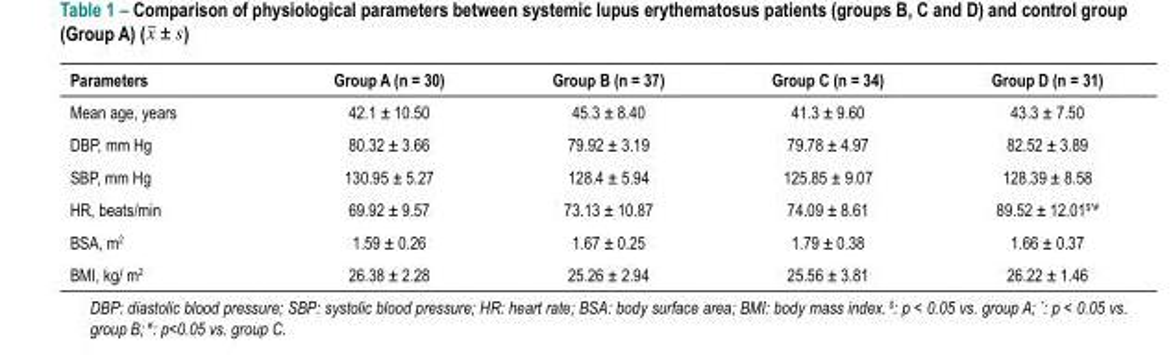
<table><thead><tr><td>Parameters</td><td>Group A (n = 30)</td><td>Group B (n = 37)</td><td>Group C (n = 34)</td><td>Group D (n = 31)</td></tr></thead><tbody><tr><td>Mean age, years</td><td>42.1 ± 10.50</td><td>45.3 ± 8.40</td><td>41.3 ± 9.60</td><td>43.3 ± 7.50</td></tr><tr><td>DBP, mm Hg</td><td>80.32 ± 3.66</td><td>79.92 ± 3.19</td><td>79.78 ± 4.97</td><td>82.52 ± 3.89</td></tr><tr><td>SBP, mm Hg</td><td>130.95 ± 5.27</td><td>128.4 ± 5.94</td><td>125.85 ± 9.07</td><td>128.39 ± 8.58</td></tr><tr><td>HR, beats/min</td><td>69.92 ± 9.57</td><td>73.13 ± 10.87</td><td>74.09 ± 8.61</td><td>89.52 ± 12.01<sup>$*#</sup></td></tr><tr><td>BSA, m<sup>2</sup></td><td>1.59 ± 0.26</td><td>1.67 ± 0.25</td><td>1.79 ± 0.38</td><td>1.66 ± 0.37</td></tr><tr><td>BMI, kg/ m<sup>2</sup></td><td>26.38 ± 2.28</td><td>25.26 ± 2.94</td><td>25.56 ± 3.81</td><td>26.22 ± 1.46</td></tr></tbody></table>